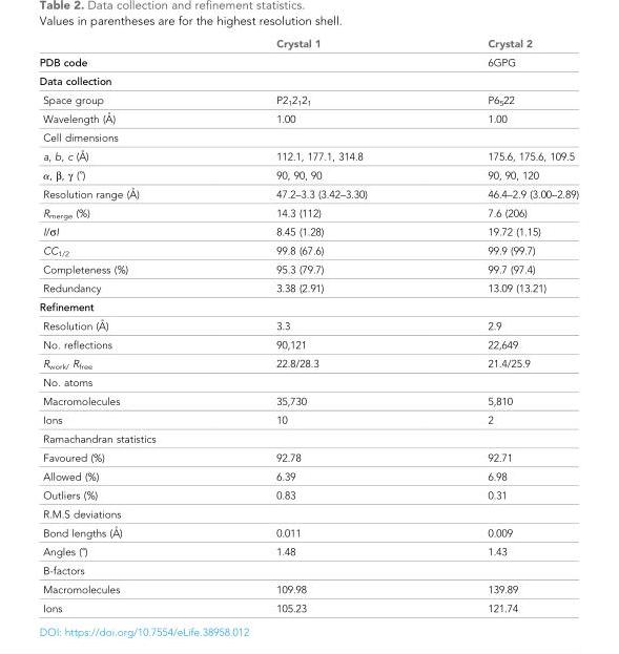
<table><thead><tr><td></td><td>Crystal 1</td><td>Crystal 2</td></tr></thead><tbody><tr><td>PDB code</td><td></td><td>6GPG</td></tr><tr><td colspan="3">Data collection</td></tr><tr><td>Space group</td><td>P2<sub>1</sub>2<sub>1</sub>2<sub>1</sub></td><td>P6<sub>5</sub>22</td></tr><tr><td>Wavelength (A˚ )</td><td>1.00</td><td>1.00</td></tr><tr><td colspan="3">Cell dimensions</td></tr><tr><td>a, b, c (A˚ )</td><td>112.1, 177.1, 314.8</td><td>175.6, 175.6, 109.5</td></tr><tr><td>α, β, γ (˚)</td><td>90, 90, 90</td><td>90, 90, 120</td></tr><tr><td>Resolution range (A˚ )</td><td>47.2–3.3 (3.42–3.30)</td><td>46.4–2.9 (3.00–2.89)</td></tr><tr><td>R<sub>merge</sub> (%)</td><td>14.3 (112)</td><td>7.6 (206)</td></tr><tr><td>I/σI</td><td>8.45 (1.28)</td><td>19.72 (1.15)</td></tr><tr><td>CC<sub>1/2</sub></td><td>99.8 (67.6)</td><td>99.9 (99.7)</td></tr><tr><td>Completeness (%)</td><td>95.3 (79.7)</td><td>99.7 (97.4)</td></tr><tr><td>Redundancy</td><td>3.38 (2.91)</td><td>13.09 (13.21)</td></tr><tr><td colspan="3">Refinement</td></tr><tr><td>Resolution (A˚ )</td><td>3.3</td><td>2.9</td></tr><tr><td>No. reflections</td><td>90,121</td><td>22,649</td></tr><tr><td>R<sub>work/</sub> R<sub>free</sub></td><td>22.8/28.3</td><td>21.4/25.9</td></tr><tr><td colspan="3">No. atoms</td></tr><tr><td>Macromolecules</td><td>35,730</td><td>5,810</td></tr><tr><td>Ions</td><td>10</td><td>2</td></tr><tr><td colspan="3">Ramachandran statistics</td></tr><tr><td>Favoured (%)</td><td>92.78</td><td>92.71</td></tr><tr><td>Allowed (%)</td><td>6.39</td><td>6.98</td></tr><tr><td>Outliers (%)</td><td>0.83</td><td>0.31</td></tr><tr><td colspan="3">R.M.S deviations</td></tr><tr><td>Bond lengths (A˚ )</td><td>0.011</td><td>0.009</td></tr><tr><td>Angles (˚)</td><td>1.48</td><td>1.43</td></tr><tr><td colspan="3">B-factors</td></tr><tr><td>Macromolecules</td><td>109.98</td><td>139.89</td></tr><tr><td>Ions</td><td>105.23</td><td>121.74</td></tr></tbody></table>